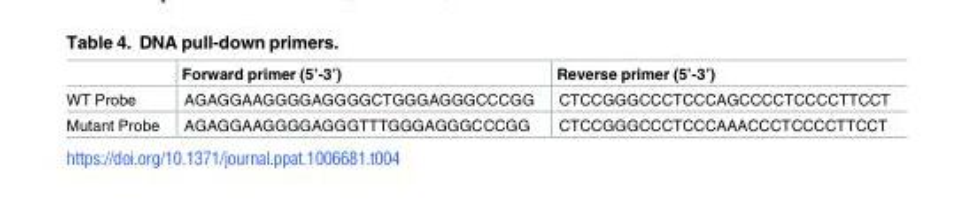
<table><thead><tr><td></td><td>Forward primer (5’-3’)</td><td>Reverse primer (5’-3’)</td></tr></thead><tbody><tr><td>WT Probe</td><td>AGAGGAAGGGGAGGGGCTGGGAGGGCCCGG</td><td>CTCCGGGCCCTCCCAGCCCCTCCCCTTCCT</td></tr><tr><td>Mutant Probe</td><td>AGAGGAAGGGGAGGGTTTGGGAGGGCCCGG</td><td>CTCCGGGCCCTCCCAAACCCTCCCCTTCCT</td></tr></tbody></table>